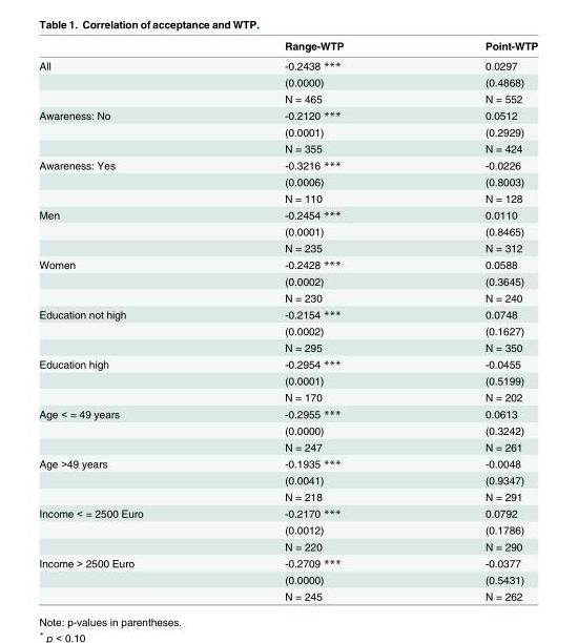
<table><thead><tr><td></td><td>Range-WTP</td><td>Point-WTP</td></tr></thead><tbody><tr><td rowspan="3">All</td><td>-0.2438 ***</td><td>0.0297</td></tr><tr><td>(0.0000)</td><td>(0.4868)</td></tr><tr><td>N = 465</td><td>N = 552</td></tr><tr><td rowspan="3">Awareness: No</td><td>-0.2120 ***</td><td>0.0512</td></tr><tr><td>(0.0001)</td><td>(0.2929)</td></tr><tr><td>N = 355</td><td>N = 424</td></tr><tr><td rowspan="3">Awareness: Yes</td><td>-0.3216 ***</td><td>-0.0226</td></tr><tr><td>(0.0006)</td><td>(0.8003)</td></tr><tr><td>N = 110</td><td>N = 128</td></tr><tr><td rowspan="3">Men</td><td>-0.2454 ***</td><td>0.0110</td></tr><tr><td>(0.0001)</td><td>(0.8465)</td></tr><tr><td>N = 235</td><td>N = 312</td></tr><tr><td rowspan="3">Women</td><td>-0.2428 ***</td><td>0.0588</td></tr><tr><td>(0.0002)</td><td>(0.3645)</td></tr><tr><td>N = 230</td><td>N = 240</td></tr><tr><td rowspan="3">Education not high</td><td>-0.2154 ***</td><td>0.0748</td></tr><tr><td>(0.0002)</td><td>(0.1627)</td></tr><tr><td>N = 295</td><td>N = 350</td></tr><tr><td rowspan="3">Education high</td><td>-0.2954 ***</td><td>-0.0455</td></tr><tr><td>(0.0001)</td><td>(0.5199)</td></tr><tr><td>N = 170</td><td>N = 202</td></tr><tr><td rowspan="3">Age &lt; = 49 years</td><td>-0.2955 ***</td><td>0.0613</td></tr><tr><td>(0.0000)</td><td>(0.3242)</td></tr><tr><td>N = 247</td><td>N = 261</td></tr><tr><td rowspan="3">Age &gt;49 years</td><td>-0.1935 ***</td><td>-0.0048</td></tr><tr><td>(0.0041)</td><td>(0.9347)</td></tr><tr><td>N = 218</td><td>N = 291</td></tr><tr><td rowspan="3">Income &lt; = 2500 Euro</td><td>-0.2170 ***</td><td>0.0792</td></tr><tr><td>(0.0012)</td><td>(0.1786)</td></tr><tr><td>N = 220</td><td>N = 290</td></tr><tr><td rowspan="3">Income &gt; 2500 Euro</td><td>-0.2709 ***</td><td>-0.0377</td></tr><tr><td>(0.0000)</td><td>(0.5431)</td></tr><tr><td>N = 245</td><td>N = 262</td></tr></tbody></table>